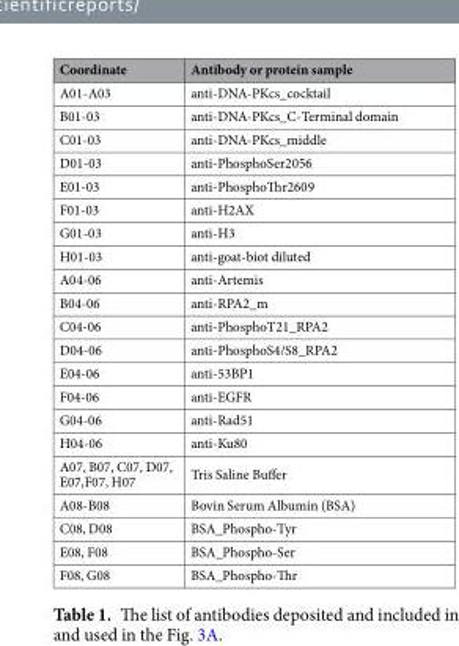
<table><thead><tr><td>Coordinate</td><td>Antibody or protein sample</td></tr></thead><tbody><tr><td>A01-A03</td><td>anti-DNA-PKcs_cocktail</td></tr><tr><td>B01-03</td><td>anti-DNA-PKcs_C-Terminal domain</td></tr><tr><td>C01-03</td><td>anti-DNA-PKcs_middle</td></tr><tr><td>D01-03</td><td>anti-PhosphoSer2056</td></tr><tr><td>E01-03</td><td>anti-PhosphoThr2609</td></tr><tr><td>F01-03</td><td>anti-H2AX</td></tr><tr><td>G01-03</td><td>anti-H3</td></tr><tr><td>H01-03</td><td>anti-goat-biot diluted</td></tr><tr><td>A04-06</td><td>anti-Artemis</td></tr><tr><td>B04-06</td><td>anti-RPA2_m</td></tr><tr><td>C04-06</td><td>anti-PhosphoT21_RPA2</td></tr><tr><td>D04-06</td><td>anti-PhosphoS4/S8_RPA2</td></tr><tr><td>E04-06</td><td>anti-53BP1</td></tr><tr><td>F04-06</td><td>anti-EGFR</td></tr><tr><td>G04-06</td><td>anti-Rad51</td></tr><tr><td>H04-06</td><td>anti-Ku80</td></tr><tr><td>A07, B07, C07, D07, E07,F07, H07</td><td>Tris Saline Buffer</td></tr><tr><td>A08-B08</td><td>Bovin Serum Albumin (BSA)</td></tr><tr><td>C08, D08</td><td>BSA_Phospho-Tyr</td></tr><tr><td>E08, F08</td><td>BSA_Phospho-Ser</td></tr><tr><td>F08, G08</td><td>BSA_Phospho-Thr</td></tr></tbody></table>